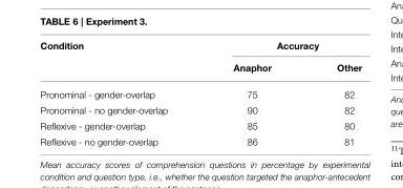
<table><thead><tr><td rowspan="2">Condition</td><td colspan="2">Accuracy</td></tr><tr><td>Anaphor</td><td>Other</td></tr></thead><tbody><tr><td>Pronominal - gender-overlap</td><td>75</td><td>82</td></tr><tr><td>Pronominal - no gender-overlap</td><td>90</td><td>82</td></tr><tr><td>Reflexive - gender-overlap</td><td>85</td><td>80</td></tr><tr><td>Reflexive - no gender-overlap</td><td>86</td><td>81</td></tr></tbody></table>